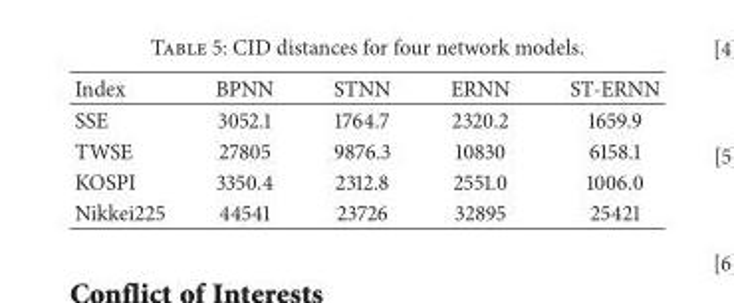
<table><thead><tr><td>Index</td><td>BPNN</td><td>STNN</td><td>ERNN</td><td>ST-ERNN</td></tr></thead><tbody><tr><td>SSE</td><td>3052.1</td><td>1764.7</td><td>2320.2</td><td>1659.9</td></tr><tr><td>TWSE</td><td>27805</td><td>9876.3</td><td>10830</td><td>6158.1</td></tr><tr><td>KOSPI</td><td>3350.4</td><td>2312.8</td><td>2551.0</td><td>1006.0</td></tr><tr><td>Nikkei225</td><td>44541</td><td>23726</td><td>32895</td><td>25421</td></tr></tbody></table>